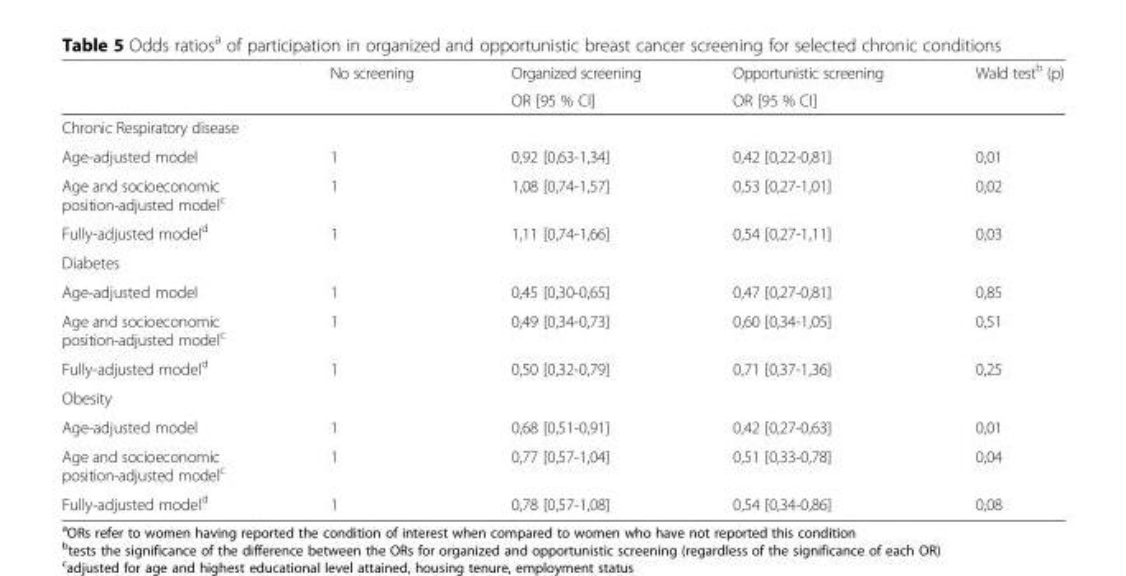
<table><thead><tr><td rowspan="2"></td><td rowspan="2">No screening</td><td rowspan="2">Organized screening OR [95 % CI]</td><td rowspan="2">Opportunistic screening OR [95 % CI]</td><td rowspan="2">Wald test<sup>b</sup> (p)</td></tr><tr></tr></thead><tbody><tr><td colspan="5">Chronic Respiratory disease</td></tr><tr><td>Age-adjusted model</td><td>1</td><td>0,92 [0,63-1,34]</td><td>0,42 [0,22-0,81]</td><td>0,01</td></tr><tr><td>Age and socioeconomic position-adjusted model<sup>c</sup></td><td>1</td><td>1,08 [0,74-1,57]</td><td>0,53 [0,27-1,01]</td><td>0,02</td></tr><tr><td>Fully-adjusted model<sup>d</sup></td><td>1</td><td>1,11 [0,74-1,66]</td><td>0,54 [0,27-1,11]</td><td>0,03</td></tr><tr><td colspan="5">Diabetes</td></tr><tr><td>Age-adjusted model</td><td>1</td><td>0,45 [0,30-0,65]</td><td>0,47 [0,27-0,81]</td><td>0,85</td></tr><tr><td>Age and socioeconomic position-adjusted model<sup>c</sup></td><td>1</td><td>0,49 [0,34-0,73]</td><td>0,60 [0,34-1,05]</td><td>0,51</td></tr><tr><td>Fully-adjusted model<sup>d</sup></td><td>1</td><td>0,50 [0,32-0,79]</td><td>0,71 [0,37-1,36]</td><td>0,25</td></tr><tr><td colspan="5">Obesity</td></tr><tr><td>Age-adjusted model</td><td>1</td><td>0,68 [0,51-0,91]</td><td>0,42 [0,27-0,63]</td><td>0,01</td></tr><tr><td>Age and socioeconomic position-adjusted model<sup>c</sup></td><td>1</td><td>0,77 [0,57-1,04]</td><td>0,51 [0,33-0,78]</td><td>0,04</td></tr><tr><td>Fully-adjusted model<sup>d</sup></td><td>1</td><td>0,78 [0,57-1,08]</td><td>0,54 [0,34-0,86]</td><td>0,08</td></tr></tbody></table>